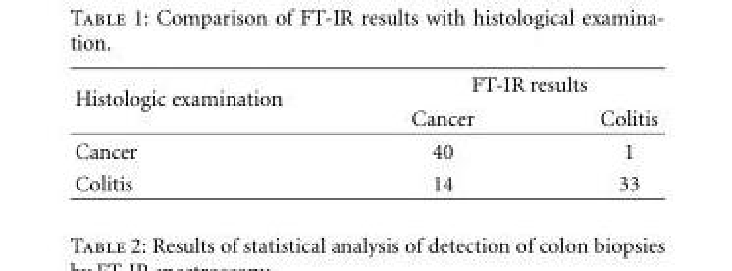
<table><thead><tr><td rowspan="2">Histologic examination</td><td colspan="2">FT-IR results</td></tr><tr><td>Cancer</td><td>Colitis</td></tr></thead><tbody><tr><td>Cancer</td><td>40</td><td>1</td></tr><tr><td>Colitis</td><td>14</td><td>33</td></tr></tbody></table>